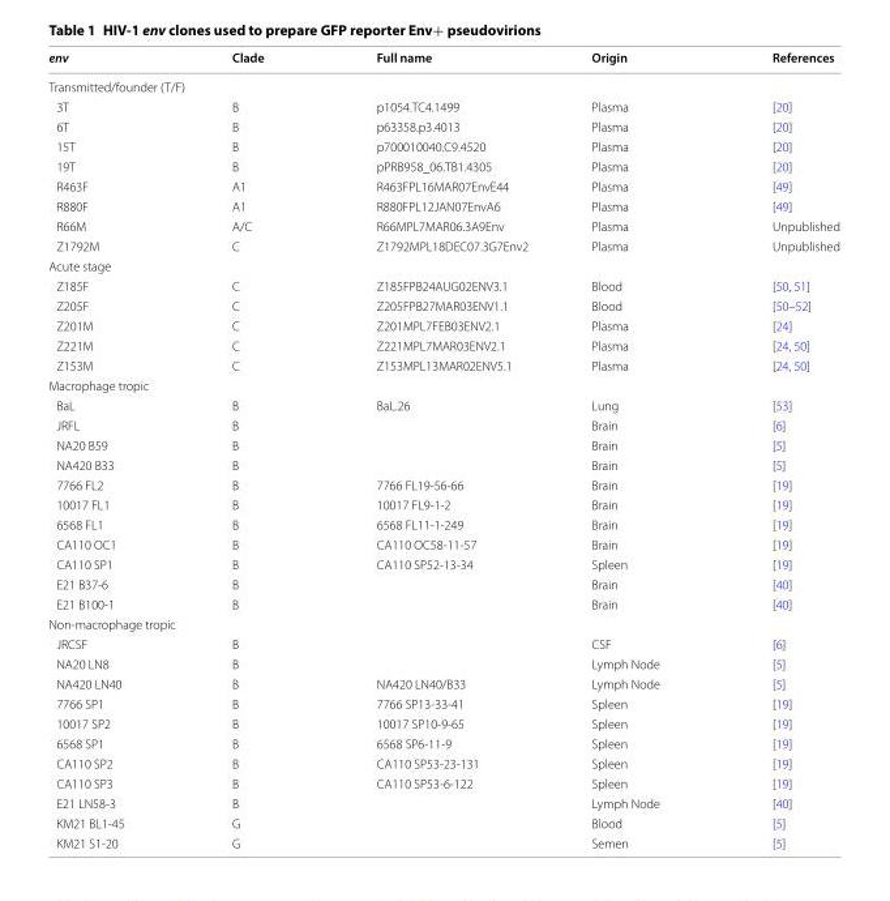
<table><thead><tr><td>env</td><td>Clade</td><td>Full name</td><td>Origin</td><td>References</td></tr></thead><tbody><tr><td colspan="5">Transmitted/founder (T/F)</td></tr><tr><td>3T</td><td>B</td><td>p1054.TC4.1499</td><td>Plasma</td><td>[20]</td></tr><tr><td>6T</td><td>B</td><td>p63358.p3.4013</td><td>Plasma</td><td>[20]</td></tr><tr><td>15T</td><td>B</td><td>p700010040.C9.4520</td><td>Plasma</td><td>[20]</td></tr><tr><td>19T</td><td>B</td><td>pPRB958_06.TB1.4305</td><td>Plasma</td><td>[20]</td></tr><tr><td>R463F</td><td>A1</td><td>R463FPL16MAR07EnvE44</td><td>Plasma</td><td>[49]</td></tr><tr><td>R880F</td><td>A1</td><td>R880FPL12JAN07EnvA6</td><td>Plasma</td><td>[49]</td></tr><tr><td>R66M</td><td>A/C</td><td>R66MPL7MAR06.3A9Env</td><td>Plasma</td><td>Unpublished</td></tr><tr><td>Z1792M</td><td>C</td><td>Z1792MPL18DEC07.3G7Env2</td><td>Plasma</td><td>Unpublished</td></tr><tr><td colspan="5">Acute stage</td></tr><tr><td>Z185F</td><td>C</td><td>Z185FPB24AUG02ENV3.1</td><td>Blood</td><td>[50, 51]</td></tr><tr><td>Z205F</td><td>C</td><td>Z205FPB27MAR03ENV1.1</td><td>Blood</td><td>[50–52]</td></tr><tr><td>Z201M</td><td>C</td><td>Z201MPL7FEB03ENV2.1</td><td>Plasma</td><td>[24]</td></tr><tr><td>Z221M</td><td>C</td><td>Z221MPL7MAR03ENV2.1</td><td>Plasma</td><td>[24, 50]</td></tr><tr><td>Z153M</td><td>C</td><td>Z153MPL13MAR02ENV5.1</td><td>Plasma</td><td>[24, 50]</td></tr><tr><td colspan="5">Macrophage tropic</td></tr><tr><td>BaL</td><td>B</td><td>BaL.26</td><td>Lung</td><td>[53]</td></tr><tr><td>JRFL</td><td>B</td><td></td><td>Brain</td><td>[6]</td></tr><tr><td>NA20 B59</td><td>B</td><td></td><td>Brain</td><td>[5]</td></tr><tr><td>NA420 B33</td><td>B</td><td></td><td>Brain</td><td>[5]</td></tr><tr><td>7766 FL2</td><td>B</td><td>7766 FL19‑56‑66</td><td>Brain</td><td>[19]</td></tr><tr><td>10017 FL1</td><td>B</td><td>10017 FL9‑1‑2</td><td>Brain</td><td>[19]</td></tr><tr><td>6568 FL1</td><td>B</td><td>6568 FL11‑1‑249</td><td>Brain</td><td>[19]</td></tr><tr><td>CA110 OC1</td><td>B</td><td>CA110 OC58‑11‑57</td><td>Brain</td><td>[19]</td></tr><tr><td>CA110 SP1</td><td>B</td><td>CA110 SP52‑13‑34</td><td>Spleen</td><td>[19]</td></tr><tr><td>E21 B37‑6</td><td>B</td><td></td><td>Brain</td><td>[40]</td></tr><tr><td>E21 B100‑1</td><td>B</td><td></td><td>Brain</td><td>[40]</td></tr><tr><td colspan="5">Non‑macrophage tropic</td></tr><tr><td>JRCSF</td><td>B</td><td></td><td>CSF</td><td>[6]</td></tr><tr><td>NA20 LN8</td><td>B</td><td></td><td>Lymph Node</td><td>[5]</td></tr><tr><td>NA420 LN40</td><td>B</td><td>NA420 LN40/B33</td><td>Lymph Node</td><td>[5]</td></tr><tr><td>7766 SP1</td><td>B</td><td>7766 SP13‑33‑41</td><td>Spleen</td><td>[19]</td></tr><tr><td>10017 SP2</td><td>B</td><td>10017 SP10‑9‑65</td><td>Spleen</td><td>[19]</td></tr><tr><td>6568 SP1</td><td>B</td><td>6568 SP6‑11‑9</td><td>Spleen</td><td>[19]</td></tr><tr><td>CA110 SP2</td><td>B</td><td>CA110 SP53‑23‑131</td><td>Spleen</td><td>[19]</td></tr><tr><td>CA110 SP3</td><td>B</td><td>CA110 SP53‑6‑122</td><td>Spleen</td><td>[19]</td></tr><tr><td>E21 LN58‑3</td><td>B</td><td></td><td>Lymph Node</td><td>[40]</td></tr><tr><td>KM21 BL1‑45</td><td>G</td><td></td><td>Blood</td><td>[5]</td></tr><tr><td>KM21 S1‑20</td><td>G</td><td></td><td>Semen</td><td>[5]</td></tr></tbody></table>